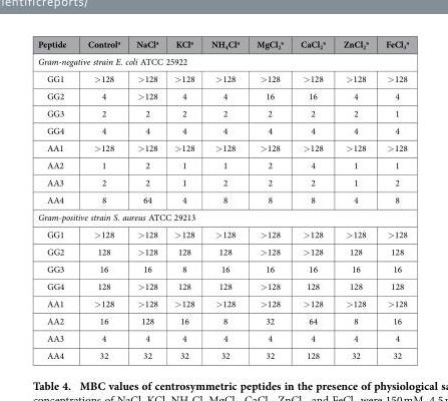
<table><thead><tr><td>Peptide</td><td>Control<sup>a</sup></td><td>NaCl<sup>a</sup></td><td>KCl<sup>a</sup></td><td>NH<sub>4</sub>Cl<sup>a</sup></td><td>MgCl<sub>2</sub> <sup>a</sup></td><td>CaCl<sub>2</sub> <sup>a</sup></td><td>ZnCl<sub>2</sub> <sup>a</sup></td><td>FeCl<sub>3</sub> <sup>a</sup></td></tr></thead><tbody><tr><td colspan="9">Gram-negative strain E. coli ATCC 25922</td></tr><tr><td>GG1</td><td>&gt; 128</td><td>&gt; 128</td><td>&gt; 128</td><td>&gt; 128</td><td>&gt; 128</td><td>&gt; 128</td><td>&gt; 128</td><td>&gt; 128</td></tr><tr><td>GG2</td><td>4</td><td>&gt; 128</td><td>4</td><td>4</td><td>16</td><td>16</td><td>4</td><td>4</td></tr><tr><td>GG3</td><td>2</td><td>2</td><td>2</td><td>2</td><td>2</td><td>2</td><td>2</td><td>1</td></tr><tr><td>GG4</td><td>4</td><td>4</td><td>4</td><td>4</td><td>4</td><td>4</td><td>4</td><td>4</td></tr><tr><td>AA1</td><td>&gt; 128</td><td>&gt; 128</td><td>&gt; 128</td><td>&gt; 128</td><td>&gt; 128</td><td>&gt; 128</td><td>&gt; 128</td><td>&gt; 128</td></tr><tr><td>AA2</td><td>1</td><td>2</td><td>1</td><td>1</td><td>2</td><td>4</td><td>1</td><td>1</td></tr><tr><td>AA3</td><td>2</td><td>2</td><td>1</td><td>2</td><td>2</td><td>2</td><td>1</td><td>2</td></tr><tr><td>AA4</td><td>8</td><td>64</td><td>4</td><td>8</td><td>8</td><td>8</td><td>4</td><td>8</td></tr><tr><td colspan="9">Gram-positive strain S. aureus ATCC 29213</td></tr><tr><td>GG1</td><td>&gt; 128</td><td>&gt; 128</td><td>&gt; 128</td><td>&gt; 128</td><td>&gt; 128</td><td>&gt; 128</td><td>&gt; 128</td><td>&gt; 128</td></tr><tr><td>GG2</td><td>128</td><td>&gt; 128</td><td>128</td><td>128</td><td>&gt; 128</td><td>&gt; 128</td><td>128</td><td>128</td></tr><tr><td>GG3</td><td>16</td><td>16</td><td>8</td><td>16</td><td>16</td><td>16</td><td>16</td><td>16</td></tr><tr><td>GG4</td><td>128</td><td>&gt; 128</td><td>128</td><td>128</td><td>&gt; 128</td><td>128</td><td>128</td><td>128</td></tr><tr><td>AA1</td><td>&gt; 128</td><td>&gt; 128</td><td>&gt; 128</td><td>&gt; 128</td><td>&gt; 128</td><td>&gt; 128</td><td>&gt; 128</td><td>&gt; 128</td></tr><tr><td>AA2</td><td>16</td><td>128</td><td>16</td><td>8</td><td>32</td><td>64</td><td>8</td><td>16</td></tr><tr><td>AA3</td><td>4</td><td>4</td><td>4</td><td>4</td><td>4</td><td>4</td><td>4</td><td>4</td></tr><tr><td>AA4</td><td>32</td><td>32</td><td>32</td><td>32</td><td>32</td><td>128</td><td>32</td><td>32</td></tr></tbody></table>